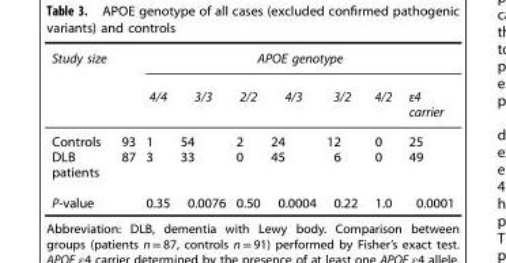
<table><thead><tr><td colspan="2">Study size</td><td colspan="7">APOE genotype</td></tr><tr><td></td><td></td><td>4/4</td><td>3/3</td><td>2/2</td><td>4/3</td><td>3/2</td><td>4/2</td><td>ε4 carrier</td></tr></thead><tbody><tr><td>Controls</td><td>93</td><td>1</td><td>54</td><td>2</td><td>24</td><td>12</td><td>0</td><td>25</td></tr><tr><td>DLB patients</td><td>87</td><td>3</td><td>33</td><td>0</td><td>45</td><td>6</td><td>0</td><td>49</td></tr><tr><td>P-value</td><td></td><td>0.35</td><td>0.0076</td><td>0.50</td><td>0.0004</td><td>0.22</td><td>1.0</td><td>0.0001</td></tr></tbody></table>